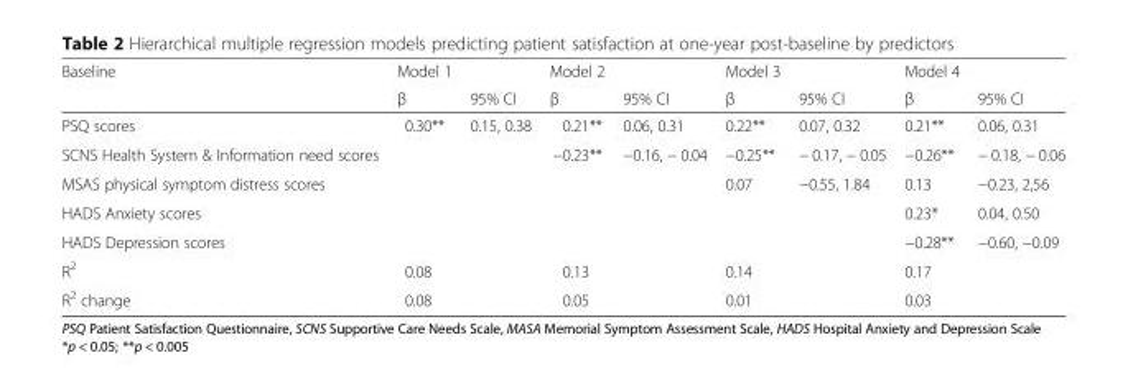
<table><thead><tr><td rowspan="2">Baseline</td><td rowspan="2">Model 1 β</td><td rowspan="2">95% CI</td><td rowspan="2">Model 2 β</td><td rowspan="2">95% CI</td><td rowspan="2">Model 3 β</td><td rowspan="2">95% CI</td><td rowspan="2">Model 4 β</td><td rowspan="2">95% CI</td></tr><tr></tr></thead><tbody><tr><td>PSQ scores</td><td>0.30**</td><td>0.15, 0.38</td><td>0.21**</td><td>0.06, 0.31</td><td>0.22**</td><td>0.07, 0.32</td><td>0.21**</td><td>0.06, 0.31</td></tr><tr><td>SCNS Health System &amp; Information need scores</td><td></td><td></td><td>−0.23**</td><td>−0.16, − 0.04</td><td>−0.25**</td><td>− 0.17, − 0.05</td><td>−0.26**</td><td>− 0.18, − 0.06</td></tr><tr><td>MSAS physical symptom distress scores</td><td></td><td></td><td></td><td></td><td>0.07</td><td>−0.55, 1.84</td><td>0.13</td><td>−0.23, 2,56</td></tr><tr><td>HADS Anxiety scores</td><td></td><td></td><td></td><td></td><td></td><td></td><td>0.23*</td><td>0.04, 0.50</td></tr><tr><td>HADS Depression scores</td><td></td><td></td><td></td><td></td><td></td><td></td><td>−0.28**</td><td>−0.60, −0.09</td></tr><tr><td>R<sup>2</sup></td><td>0.08</td><td></td><td>0.13</td><td></td><td>0.14</td><td></td><td>0.17</td><td></td></tr><tr><td>R<sup>2</sup> change</td><td>0.08</td><td></td><td>0.05</td><td></td><td>0.01</td><td></td><td>0.03</td><td></td></tr></tbody></table>